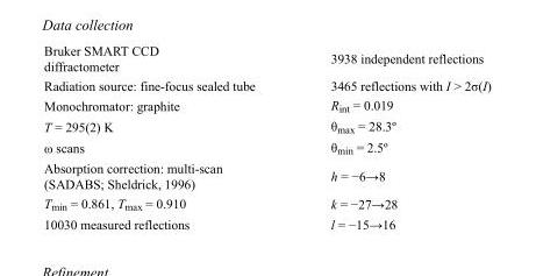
<table><tbody><tr><td>Bruker SMART CCD diffractometer</td><td>3938 independent reflections</td></tr><tr><td>Radiation source: fine-focus sealed tube</td><td>3465 reflections with I &gt; 2σ(I)</td></tr><tr><td>Monochromator: graphite</td><td>R<sub>int</sub> = 0.019</td></tr><tr><td>T = 295(2) K</td><td>θ<sub>max</sub> = 28.3º</td></tr><tr><td>ω scans</td><td>θ<sub>min</sub> = 2.5º</td></tr><tr><td>Absorption correction: multi-scan (SADABS; Sheldrick, 1996)</td><td>h = −6→8</td></tr><tr><td>T<sub>min</sub> = 0.861, T<sub>max</sub> = 0.910</td><td>k = −27→28</td></tr><tr><td>10030 measured reflections</td><td>l = −15→16</td></tr></tbody></table>